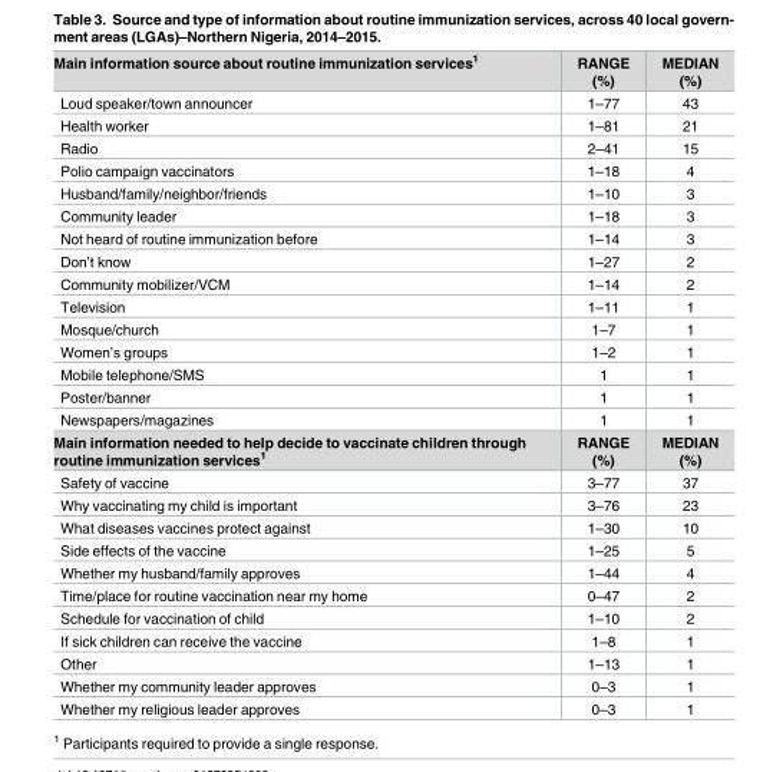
<table><tbody><tr><td>Main information source about routine immunization services<sup>1</sup></td><td>RANGE (%)</td><td>MEDIAN (%)</td></tr><tr><td>Loud speaker/town announcer</td><td>1–77</td><td>43</td></tr><tr><td>Health worker</td><td>1–81</td><td>21</td></tr><tr><td>Radio</td><td>2–41</td><td>15</td></tr><tr><td>Polio campaign vaccinators</td><td>1–18</td><td>4</td></tr><tr><td>Husband/family/neighbor/friends</td><td>1–10</td><td>3</td></tr><tr><td>Community leader</td><td>1–18</td><td>3</td></tr><tr><td>Not heard of routine immunization before</td><td>1–14</td><td>3</td></tr><tr><td>Don’t know</td><td>1–27</td><td>2</td></tr><tr><td>Community mobilizer/VCM</td><td>1–14</td><td>2</td></tr><tr><td>Television</td><td>1–11</td><td>1</td></tr><tr><td>Mosque/church</td><td>1–7</td><td>1</td></tr><tr><td>Women’s groups</td><td>1–2</td><td>1</td></tr><tr><td>Mobile telephone/SMS</td><td>1</td><td>1</td></tr><tr><td>Poster/banner</td><td>1</td><td>1</td></tr><tr><td>Newspapers/magazines</td><td>1</td><td>1</td></tr><tr><td>Main information needed to help decide to vaccinate children through routine immunization services<sup>1</sup></td><td>RANGE (%)</td><td>MEDIAN (%)</td></tr><tr><td>Safety of vaccine</td><td>3–77</td><td>37</td></tr><tr><td>Why vaccinating my child is important</td><td>3–76</td><td>23</td></tr><tr><td>What diseases vaccines protect against</td><td>1–30</td><td>10</td></tr><tr><td>Side effects of the vaccine</td><td>1–25</td><td>5</td></tr><tr><td>Whether my husband/family approves</td><td>1–44</td><td>4</td></tr><tr><td>Time/place for routine vaccination near my home</td><td>0–47</td><td>2</td></tr><tr><td>Schedule for vaccination of child</td><td>1–10</td><td>2</td></tr><tr><td>If sick children can receive the vaccine</td><td>1–8</td><td>1</td></tr><tr><td>Other</td><td>1–13</td><td>1</td></tr><tr><td>Whether my community leader approves</td><td>0–3</td><td>1</td></tr><tr><td>Whether my religious leader approves</td><td>0–3</td><td>1</td></tr></tbody></table>